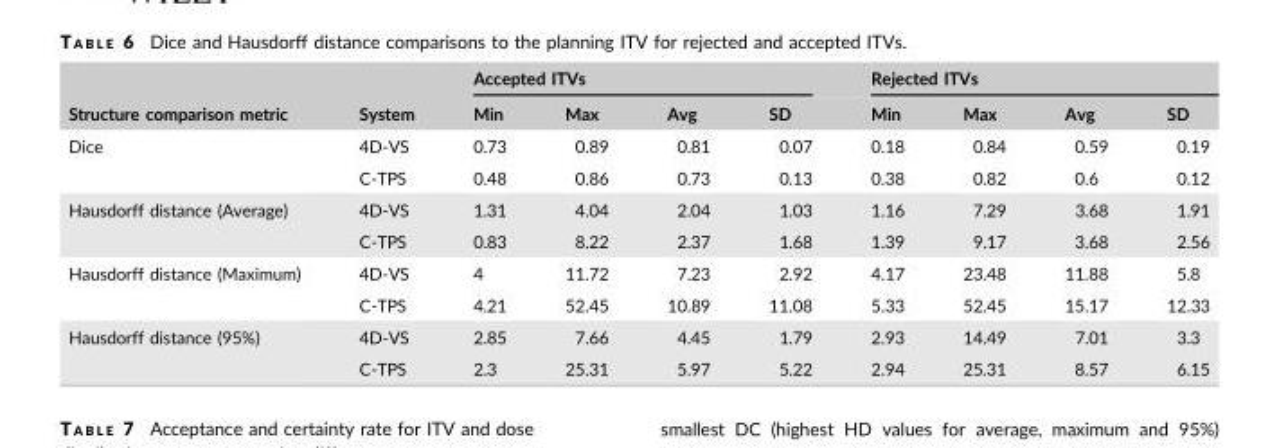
<table><thead><tr><td rowspan="2">Structure comparison metric</td><td rowspan="2">System</td><td colspan="4">Accepted ITVs</td><td colspan="4">Rejected ITVs</td></tr><tr><td>Min</td><td>Max</td><td>Avg</td><td>SD</td><td>Min</td><td>Max</td><td>Avg</td><td>SD</td></tr></thead><tbody><tr><td rowspan="2">Dice</td><td>4D-VS</td><td>0.73</td><td>0.89</td><td>0.81</td><td>0.07</td><td>0.18</td><td>0.84</td><td>0.59</td><td>0.19</td></tr><tr><td>C-TPS</td><td>0.48</td><td>0.86</td><td>0.73</td><td>0.13</td><td>0.38</td><td>0.82</td><td>0.6</td><td>0.12</td></tr><tr><td rowspan="2">Hausdorff distance (Average)</td><td>4D-VS</td><td>1.31</td><td>4.04</td><td>2.04</td><td>1.03</td><td>1.16</td><td>7.29</td><td>3.68</td><td>1.91</td></tr><tr><td>C-TPS</td><td>0.83</td><td>8.22</td><td>2.37</td><td>1.68</td><td>1.39</td><td>9.17</td><td>3.68</td><td>2.56</td></tr><tr><td rowspan="2">Hausdorff distance (Maximum)</td><td>4D-VS</td><td>4</td><td>11.72</td><td>7.23</td><td>2.92</td><td>4.17</td><td>23.48</td><td>11.88</td><td>5.8</td></tr><tr><td>C-TPS</td><td>4.21</td><td>52.45</td><td>10.89</td><td>11.08</td><td>5.33</td><td>52.45</td><td>15.17</td><td>12.33</td></tr><tr><td rowspan="2">Hausdorff distance (95%)</td><td>4D-VS</td><td>2.85</td><td>7.66</td><td>4.45</td><td>1.79</td><td>2.93</td><td>14.49</td><td>7.01</td><td>3.3</td></tr><tr><td>C-TPS</td><td>2.3</td><td>25.31</td><td>5.97</td><td>5.22</td><td>2.94</td><td>25.31</td><td>8.57</td><td>6.15</td></tr></tbody></table>